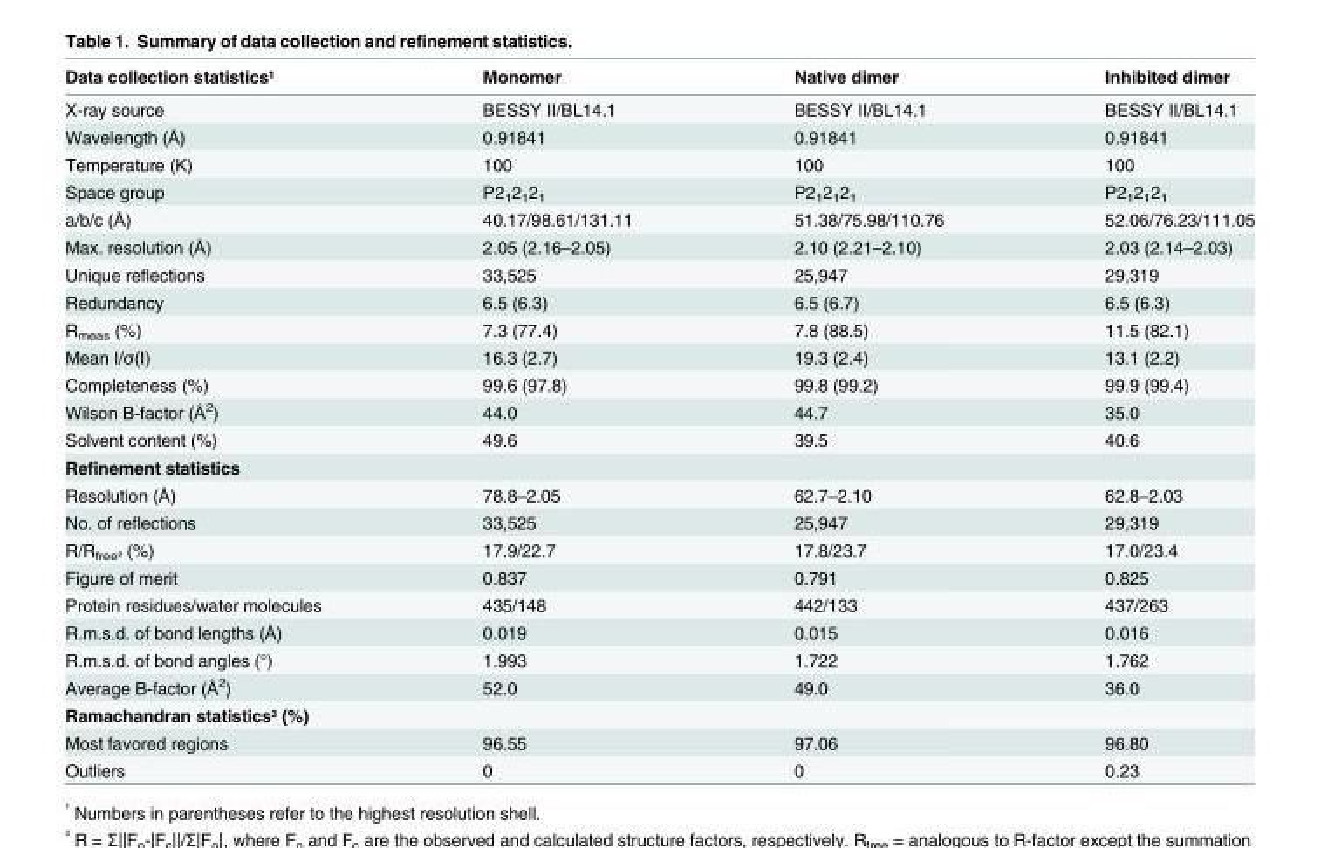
<table><thead><tr><td>Data collection statistics¹</td><td>Monomer</td><td>Native dimer</td><td>Inhibited dimer</td></tr></thead><tbody><tr><td>X-ray source</td><td>BESSY II/BL14.1</td><td>BESSY II/BL14.1</td><td>BESSY II/BL14.1</td></tr><tr><td>Wavelength (Å)</td><td>0.91841</td><td>0.91841</td><td>0.91841</td></tr><tr><td>Temperature (K)</td><td>100</td><td>100</td><td>100</td></tr><tr><td>Space group</td><td>P2<sub>1</sub>2<sub>1</sub>2<sub>1</sub></td><td>P2<sub>1</sub>2<sub>1</sub>2<sub>1</sub></td><td>P2<sub>1</sub>2<sub>1</sub>2<sub>1</sub></td></tr><tr><td>a/b/c (Å)</td><td>40.17/98.61/131.11</td><td>51.38/75.98/110.76</td><td>52.06/76.23/111.05</td></tr><tr><td>Max. resolution (Å)</td><td>2.05 (2.16–2.05)</td><td>2.10 (2.21–2.10)</td><td>2.03 (2.14–2.03)</td></tr><tr><td>Unique reflections</td><td>33,525</td><td>25,947</td><td>29,319</td></tr><tr><td>Redundancy</td><td>6.5 (6.3)</td><td>6.5 (6.7)</td><td>6.5 (6.3)</td></tr><tr><td>R<sub>meas</sub> (%)</td><td>7.3 (77.4)</td><td>7.8 (88.5)</td><td>11.5 (82.1)</td></tr><tr><td>Mean I/σ(I)</td><td>16.3 (2.7)</td><td>19.3 (2.4)</td><td>13.1 (2.2)</td></tr><tr><td>Completeness (%)</td><td>99.6 (97.8)</td><td>99.8 (99.2)</td><td>99.9 (99.4)</td></tr><tr><td>Wilson B-factor (Å<sup>2</sup>)</td><td>44.0</td><td>44.7</td><td>35.0</td></tr><tr><td>Solvent content (%)</td><td>49.6</td><td>39.5</td><td>40.6</td></tr><tr><td colspan="4">Refinement statistics</td></tr><tr><td>Resolution (Å)</td><td>78.8–2.05</td><td>62.7–2.10</td><td>62.8–2.03</td></tr><tr><td>No. of reflections</td><td>33,525</td><td>25,947</td><td>29,319</td></tr><tr><td>R/R<sub>free²</sub> (%)</td><td>17.9/22.7</td><td>17.8/23.7</td><td>17.0/23.4</td></tr><tr><td>Figure of merit</td><td>0.837</td><td>0.791</td><td>0.825</td></tr><tr><td>Protein residues/water molecules</td><td>435/148</td><td>442/133</td><td>437/263</td></tr><tr><td>R.m.s.d. of bond lengths (Å)</td><td>0.019</td><td>0.015</td><td>0.016</td></tr><tr><td>R.m.s.d. of bond angles (°)</td><td>1.993</td><td>1.722</td><td>1.762</td></tr><tr><td>Average B-factor (Å<sup>2</sup>)</td><td>52.0</td><td>49.0</td><td>36.0</td></tr><tr><td colspan="4">Ramachandran statistics³ (%)</td></tr><tr><td>Most favored regions</td><td>96.55</td><td>97.06</td><td>96.80</td></tr><tr><td>Outliers</td><td>0</td><td>0</td><td>0.23</td></tr></tbody></table>